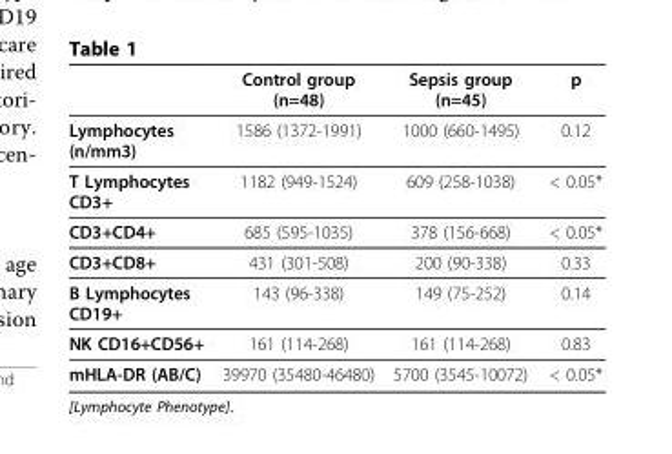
<table><thead><tr><td></td><td>Control group (n=48)</td><td>Sepsis group (n=45)</td><td>p</td></tr></thead><tbody><tr><td>Lymphocytes (n/mm3)</td><td>1586 (1372-1991)</td><td>1000 (660-1495)</td><td>0.12</td></tr><tr><td>T Lymphocytes CD3+</td><td>1182 (949-1524)</td><td>609 (258-1038)</td><td>&lt; 0.05*</td></tr><tr><td>CD3+CD4+</td><td>685 (595-1035)</td><td>378 (156-668)</td><td>&lt; 0.05*</td></tr><tr><td>CD3+CD8+</td><td>431 (301-508)</td><td>200 (90-338)</td><td>0.33</td></tr><tr><td>B Lymphocytes CD19+</td><td>143 (96-338)</td><td>149 (75-252)</td><td>0.14</td></tr><tr><td>NK CD16+CD56+</td><td>161 (114-268)</td><td>161 (114-268)</td><td>0.83</td></tr><tr><td>mHLA-DR (AB/C)</td><td>39970 (35480-46480)</td><td>5700 (3545-10072)</td><td>&lt; 0.05*</td></tr></tbody></table>